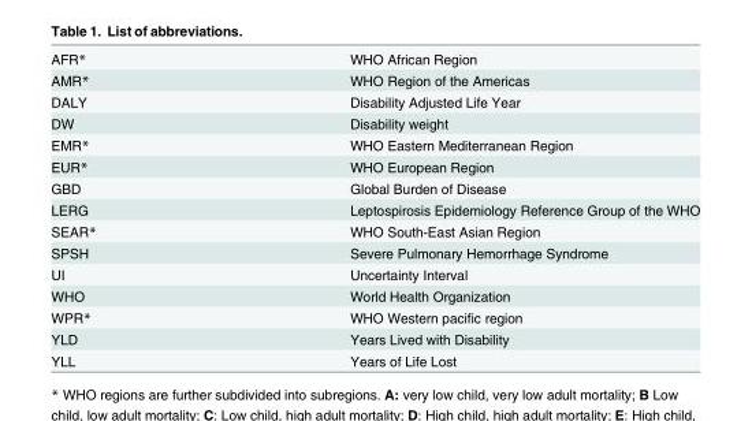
<table><tbody><tr><td>AFR*</td><td>WHO African Region</td></tr><tr><td>AMR*</td><td>WHO Region of the Americas</td></tr><tr><td>DALY</td><td>Disability Adjusted Life Year</td></tr><tr><td>DW</td><td>Disability weight</td></tr><tr><td>EMR*</td><td>WHO Eastern Mediterranean Region</td></tr><tr><td>EUR*</td><td>WHO European Region</td></tr><tr><td>GBD</td><td>Global Burden of Disease</td></tr><tr><td>LERG</td><td>Leptospirosis Epidemiology Reference Group of the WHO</td></tr><tr><td>SEAR*</td><td>WHO South-East Asian Region</td></tr><tr><td>SPSH</td><td>Severe Pulmonary Hemorrhage Syndrome</td></tr><tr><td>UI</td><td>Uncertainty Interval</td></tr><tr><td>WHO</td><td>World Health Organization</td></tr><tr><td>WPR*</td><td>WHO Western pacific region</td></tr><tr><td>YLD</td><td>Years Lived with Disability</td></tr><tr><td>YLL</td><td>Years of Life Lost</td></tr></tbody></table>